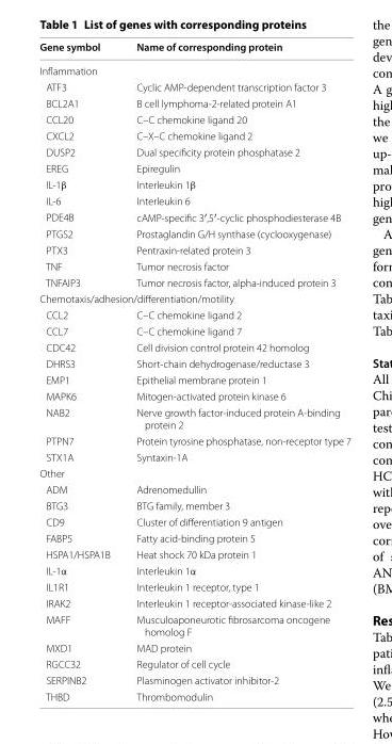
<table><thead><tr><td>Gene symbol</td><td>Name of corresponding protein</td></tr></thead><tbody><tr><td colspan="2">Inflammation</td></tr><tr><td>ATF3</td><td>Cyclic AMP-dependent transcription factor 3</td></tr><tr><td>BCL2A1</td><td>B cell lymphoma-2-related protein A1</td></tr><tr><td>CCL20</td><td>C–C chemokine ligand 20</td></tr><tr><td>CXCL2</td><td>C–X–C chemokine ligand 2</td></tr><tr><td>DUSP2</td><td>Dual specificity protein phosphatase 2</td></tr><tr><td>EREG</td><td>Epiregulin</td></tr><tr><td>IL-1β</td><td>Interleukin 1β</td></tr><tr><td>IL-6</td><td>Interleukin 6</td></tr><tr><td>PDE4B</td><td>cAMP-specific 3′,5′-cyclic phosphodiesterase 4B</td></tr><tr><td>PTGS2</td><td>Prostaglandin G/H synthase (cyclooxygenase)</td></tr><tr><td>PTX3</td><td>Pentraxin-related protein 3</td></tr><tr><td>TNF</td><td>Tumor necrosis factor</td></tr><tr><td>TNFAIP3</td><td>Tumor necrosis factor, alpha-induced protein 3</td></tr><tr><td colspan="2">Chemotaxis/adhesion/differentiation/motility</td></tr><tr><td>CCL2</td><td>C–C chemokine ligand 2</td></tr><tr><td>CCL7</td><td>C–C chemokine ligand 7</td></tr><tr><td>CDC42</td><td>Cell division control protein 42 homolog</td></tr><tr><td>DHRS3</td><td>Short-chain dehydrogenase/reductase 3</td></tr><tr><td>EMP1</td><td>Epithelial membrane protein 1</td></tr><tr><td>MAPK6</td><td>Mitogen-activated protein kinase 6</td></tr><tr><td>NAB2</td><td>Nerve growth factor-induced protein A-binding protein 2</td></tr><tr><td>PTPN7</td><td>Protein tyrosine phosphatase, non-receptor type 7</td></tr><tr><td>STX1A</td><td>Syntaxin-1A</td></tr><tr><td colspan="2">Other</td></tr><tr><td>ADM</td><td>Adrenomedullin</td></tr><tr><td>BTG3</td><td>BTG family, member 3</td></tr><tr><td>CD9</td><td>Cluster of differentiation 9 antigen</td></tr><tr><td>FABP5</td><td>Fatty acid-binding protein 5</td></tr><tr><td>HSPA1/HSPA1B</td><td>Heat shock 70 kDa protein 1</td></tr><tr><td>IL-1α</td><td>Interleukin 1α</td></tr><tr><td>IL1R1</td><td>Interleukin 1 receptor, type 1</td></tr><tr><td>IRAK2</td><td>Interleukin 1 receptor-associated kinase-like 2</td></tr><tr><td>MAFF</td><td>Musculoaponeurotic fibrosarcoma oncogene homolog F</td></tr><tr><td>MXD1</td><td>MAD protein</td></tr><tr><td>RGCC32</td><td>Regulator of cell cycle</td></tr><tr><td>SERPINB2</td><td>Plasminogen activator inhibitor-2</td></tr><tr><td>THBD</td><td>Thrombomodulin</td></tr></tbody></table>